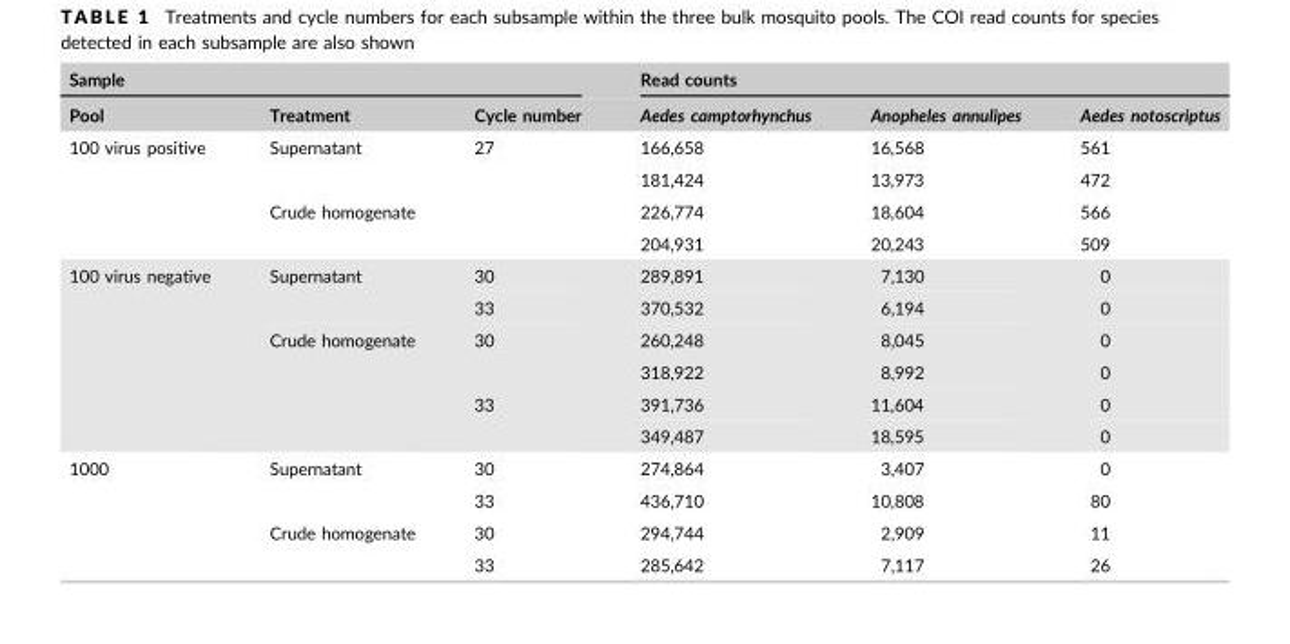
<table><thead><tr><td colspan="3">Sample</td><td colspan="3">Read counts</td></tr><tr><td>Pool</td><td>Treatment</td><td>Cycle number</td><td>Aedes camptorhynchus</td><td>Anopheles annulipes</td><td>Aedes notoscriptus</td></tr></thead><tbody><tr><td rowspan="4">100 virus positive</td><td rowspan="2">Supernatant</td><td rowspan="4">27</td><td>166,658</td><td>16,568</td><td>561</td></tr><tr><td>181,424</td><td>13,973</td><td>472</td></tr><tr><td rowspan="2">Crude homogenate</td><td>226,774</td><td>18,604</td><td>566</td></tr><tr><td>204,931</td><td>20,243</td><td>509</td></tr><tr><td rowspan="6">100 virus negative</td><td rowspan="2">Supernatant</td><td>30</td><td>289,891</td><td>7,130</td><td>0</td></tr><tr><td>33</td><td>370,532</td><td>6,194</td><td>0</td></tr><tr><td rowspan="4">Crude homogenate</td><td rowspan="2">30</td><td>260,248</td><td>8,045</td><td>0</td></tr><tr><td>318,922</td><td>8,992</td><td>0</td></tr><tr><td rowspan="2">33</td><td>391,736</td><td>11,604</td><td>0</td></tr><tr><td>349,487</td><td>18,595</td><td>0</td></tr><tr><td rowspan="4">1000</td><td rowspan="2">Supernatant</td><td>30</td><td>274,864</td><td>3,407</td><td>0</td></tr><tr><td>33</td><td>436,710</td><td>10,808</td><td>80</td></tr><tr><td rowspan="2">Crude homogenate</td><td>30</td><td>294,744</td><td>2,909</td><td>11</td></tr><tr><td>33</td><td>285,642</td><td>7,117</td><td>26</td></tr></tbody></table>